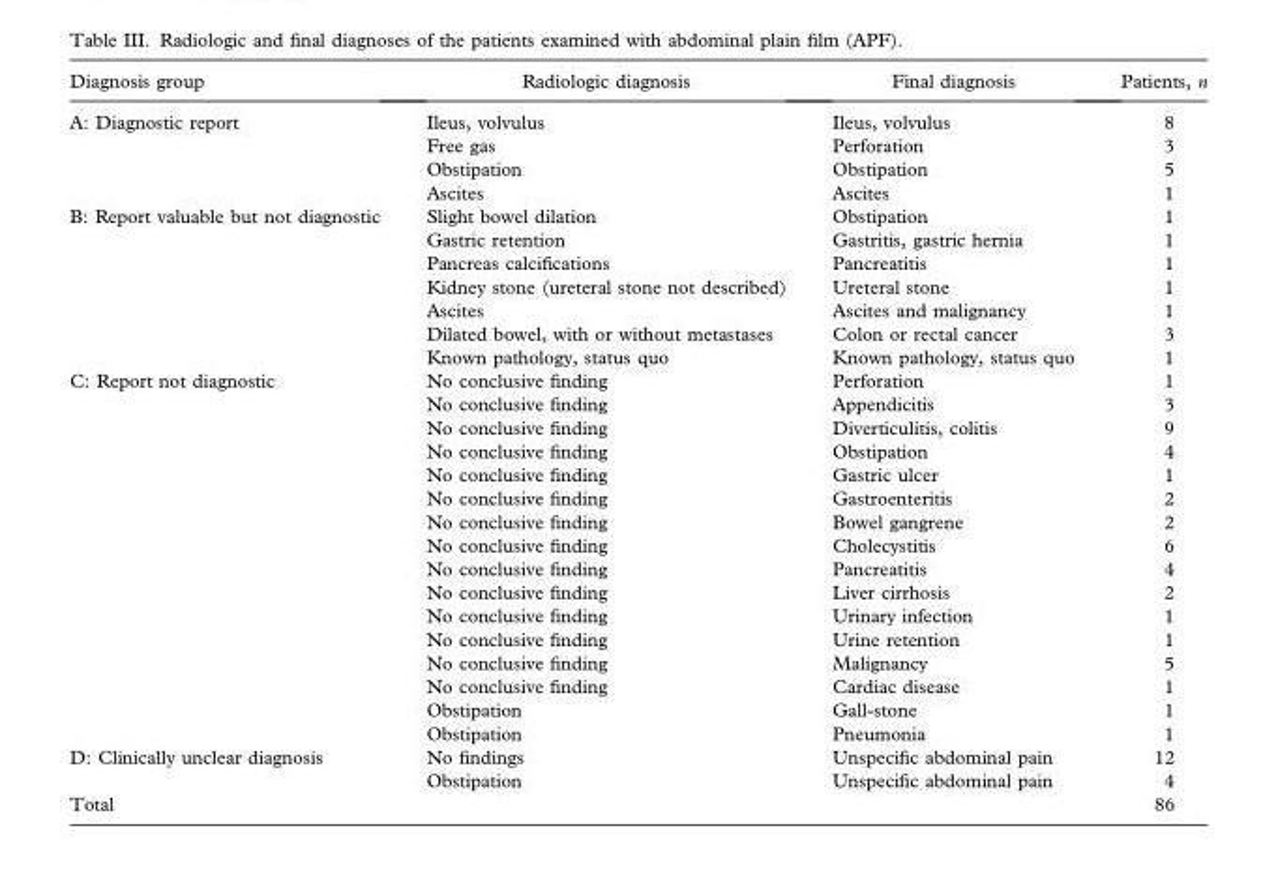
<table><thead><tr><td>Diagnosis group</td><td>Radiologic diagnosis</td><td>Final diagnosis</td><td>Patients, n</td></tr></thead><tbody><tr><td rowspan="4">A: Diagnostic report</td><td>Ileus, volvulus</td><td>Ileus, volvulus</td><td>8</td></tr><tr><td>Free gas</td><td>Perforation</td><td>3</td></tr><tr><td>Obstipation</td><td>Obstipation</td><td>5</td></tr><tr><td>Ascites</td><td>Ascites</td><td>1</td></tr><tr><td rowspan="7">B: Report valuable but not diagnostic</td><td>Slight bowel dilation</td><td>Obstipation</td><td>1</td></tr><tr><td>Gastric retention</td><td>Gastritis, gastric hernia</td><td>1</td></tr><tr><td>Pancreas calcifications</td><td>Pancreatitis</td><td>1</td></tr><tr><td>Kidney stone (ureteral stone not described)</td><td>Ureteral stone</td><td>1</td></tr><tr><td>Ascites</td><td>Ascites and malignancy</td><td>1</td></tr><tr><td>Dilated bowel, with or without metastases</td><td>Colon or rectal cancer</td><td>3</td></tr><tr><td>Known pathology, status quo</td><td>Known pathology, status quo</td><td>1</td></tr><tr><td rowspan="16">C: Report not diagnostic</td><td>No conclusive finding</td><td>Perforation</td><td>1</td></tr><tr><td>No conclusive finding</td><td>Appendicitis</td><td>3</td></tr><tr><td>No conclusive finding</td><td>Diverticulitis, colitis</td><td>9</td></tr><tr><td>No conclusive finding</td><td>Obstipation</td><td>4</td></tr><tr><td>No conclusive finding</td><td>Gastric ulcer</td><td>1</td></tr><tr><td>No conclusive finding</td><td>Gastroenteritis</td><td>2</td></tr><tr><td>No conclusive finding</td><td>Bowel gangrene</td><td>2</td></tr><tr><td>No conclusive finding</td><td>Cholecystitis</td><td>6</td></tr><tr><td>No conclusive finding</td><td>Pancreatitis</td><td>4</td></tr><tr><td>No conclusive finding</td><td>Liver cirrhosis</td><td>2</td></tr><tr><td>No conclusive finding</td><td>Urinary infection</td><td>1</td></tr><tr><td>No conclusive finding</td><td>Urine retention</td><td>1</td></tr><tr><td>No conclusive finding</td><td>Malignancy</td><td>5</td></tr><tr><td>No conclusive finding</td><td>Cardiac disease</td><td>1</td></tr><tr><td>Obstipation</td><td>Gall-stone</td><td>1</td></tr><tr><td>Obstipation</td><td>Pneumonia</td><td>1</td></tr><tr><td rowspan="2">D: Clinically unclear diagnosis</td><td>No findings</td><td>Unspecific abdominal pain</td><td>12</td></tr><tr><td>Obstipation</td><td>Unspecific abdominal pain</td><td>4</td></tr><tr><td>Total</td><td></td><td></td><td>86</td></tr></tbody></table>